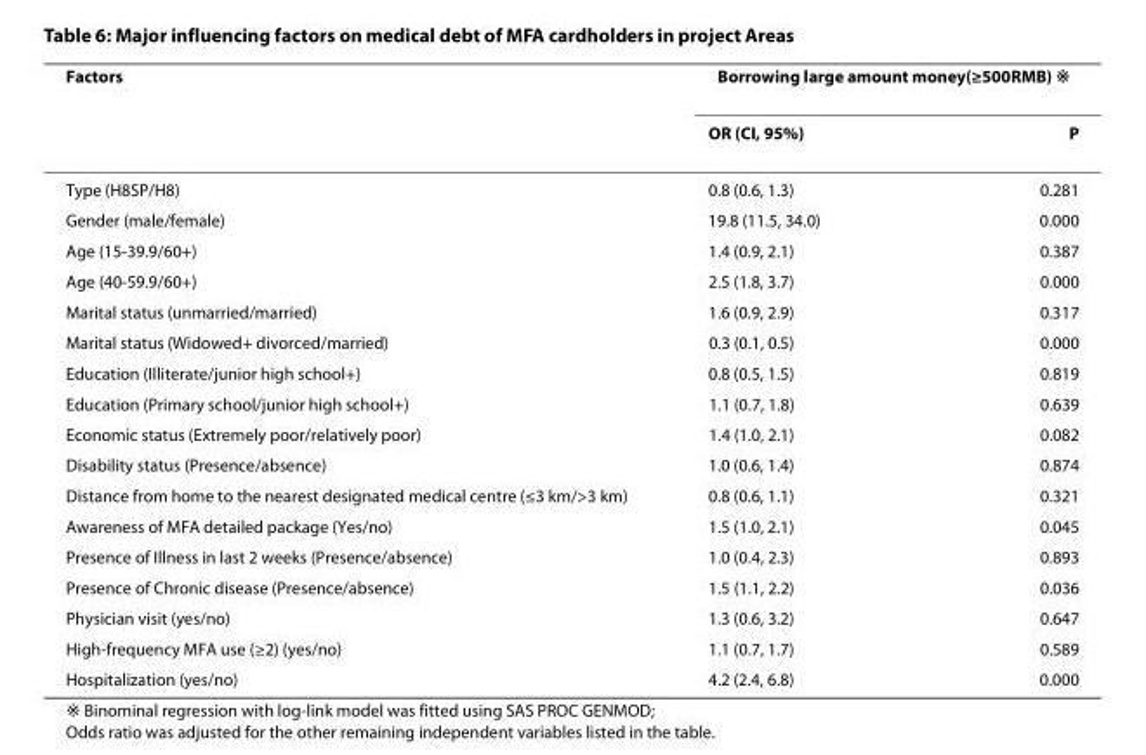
<table><thead><tr><td rowspan="2">Factors</td><td colspan="2">Borrowing large amount money(≥500RMB) ※</td></tr><tr><td>OR (CI, 95%)</td><td>P</td></tr></thead><tbody><tr><td>Type (H8SP/H8)</td><td>0.8 (0.6, 1.3)</td><td>0.281</td></tr><tr><td>Gender (male/female)</td><td>19.8 (11.5, 34.0)</td><td>0.000</td></tr><tr><td>Age (15-39.9/60+)</td><td>1.4 (0.9, 2.1)</td><td>0.387</td></tr><tr><td>Age (40-59.9/60+)</td><td>2.5 (1.8, 3.7)</td><td>0.000</td></tr><tr><td>Marital status (unmarried/married)</td><td>1.6 (0.9, 2.9)</td><td>0.317</td></tr><tr><td>Marital status (Widowed+ divorced/married)</td><td>0.3 (0.1, 0.5)</td><td>0.000</td></tr><tr><td>Education (Illiterate/junior high school+)</td><td>0.8 (0.5, 1.5)</td><td>0.819</td></tr><tr><td>Education (Primary school/junior high school+)</td><td>1.1 (0.7, 1.8)</td><td>0.639</td></tr><tr><td>Economic status (Extremely poor/relatively poor)</td><td>1.4 (1.0, 2.1)</td><td>0.082</td></tr><tr><td>Disability status (Presence/absence)</td><td>1.0 (0.6, 1.4)</td><td>0.874</td></tr><tr><td>Distance from home to the nearest designated medical centre (≤3 km/&gt;3 km)</td><td>0.8 (0.6, 1.1)</td><td>0.321</td></tr><tr><td>Awareness of MFA detailed package (Yes/no)</td><td>1.5 (1.0, 2.1)</td><td>0.045</td></tr><tr><td>Presence of Illness in last 2 weeks (Presence/absence)</td><td>1.0 (0.4, 2.3)</td><td>0.893</td></tr><tr><td>Presence of Chronic disease (Presence/absence)</td><td>1.5 (1.1, 2.2)</td><td>0.036</td></tr><tr><td>Physician visit (yes/no)</td><td>1.3 (0.6, 3.2)</td><td>0.647</td></tr><tr><td>High-frequency MFA use (≥2) (yes/no)</td><td>1.1 (0.7, 1.7)</td><td>0.589</td></tr><tr><td>Hospitalization (yes/no)</td><td>4.2 (2.4, 6.8)</td><td>0.000</td></tr></tbody></table>